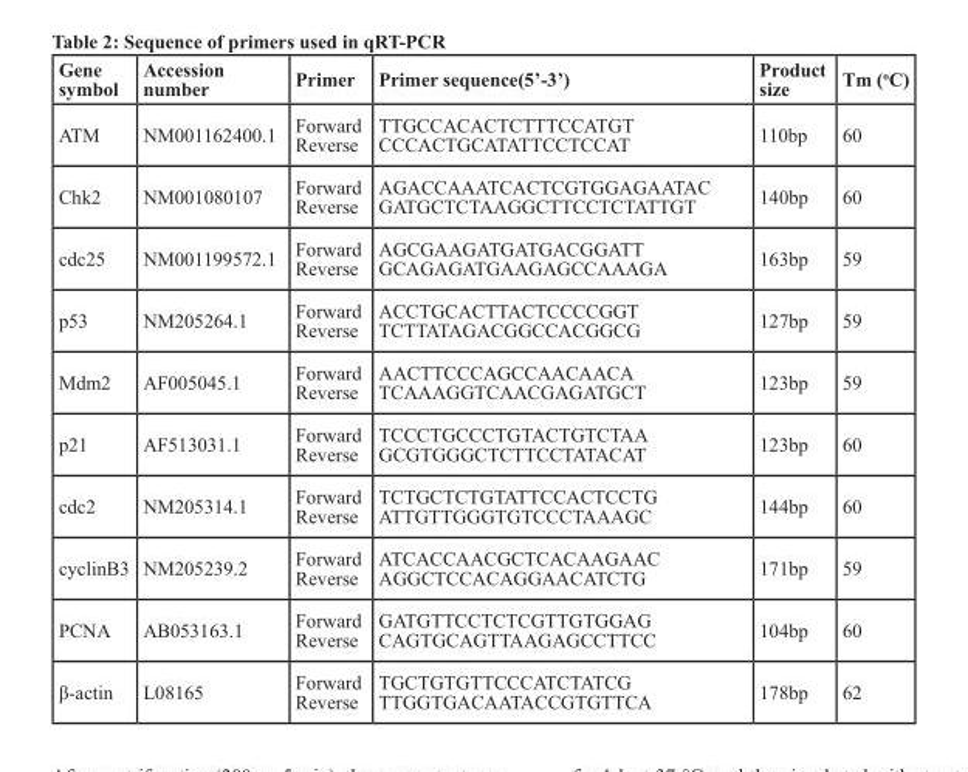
<table><thead><tr><td>Gene symbol</td><td>Accession number</td><td>Primer</td><td>Primer sequence(5’-3’)</td><td>Product size</td><td>Tm (°C)</td></tr></thead><tbody><tr><td>ATM</td><td>NM001162400.1</td><td>Forward Reverse</td><td>TTGCCACACTCTTTCCATGT CCCACTGCATATTCCTCCAT</td><td>110bp</td><td>60</td></tr><tr><td>Chk2</td><td>NM001080107</td><td>Forward Reverse</td><td>AGACCAAATCACTCGTGGAGAATAC GATGCTCTAAGGCTTCCTCTATTGT</td><td>140bp</td><td>60</td></tr><tr><td>cdc25</td><td>NM001199572.1</td><td>Forward Reverse</td><td>AGCGAAGATGATGACGGATT GCAGAGATGAAGAGCCAAAGA</td><td>163bp</td><td>59</td></tr><tr><td>p53</td><td>NM205264.1</td><td>Forward Reverse</td><td>ACCTGCACTTACTCCCCGGT TCTTATAGACGGCCACGGCG</td><td>127bp</td><td>59</td></tr><tr><td>Mdm2</td><td>AF005045.1</td><td>Forward Reverse</td><td>AACTTCCCAGCCAACAACA TCAAAGGTCAACGAGATGCT</td><td>123bp</td><td>59</td></tr><tr><td>p21</td><td>AF513031.1</td><td>Forward Reverse</td><td>TCCCTGCCCTGTACTGTCTAA GCGTGGGCTCTTCCTATACAT</td><td>123bp</td><td>60</td></tr><tr><td>cdc2</td><td>NM205314.1</td><td>Forward Reverse</td><td>TCTGCTCTGTATTCCACTCCTG ATTGTTGGGTGTCCCTAAAGC</td><td>144bp</td><td>60</td></tr><tr><td>cyclinB3</td><td>NM205239.2</td><td>Forward Reverse</td><td>ATCACCAACGCTCACAAGAAC AGGCTCCACAGGAACATCTG</td><td>171bp</td><td>59</td></tr><tr><td>PCNA</td><td>AB053163.1</td><td>Forward Reverse</td><td>GATGTTCCTCTCGTTGTGGAG CAGTGCAGTTAAGAGCCTTCC</td><td>104bp</td><td>60</td></tr><tr><td>β-actin</td><td>L08165</td><td>Forward Reverse</td><td>TGCTGTGTTCCCATCTATCG TTGGTGACAATACCGTGTTCA</td><td>178bp</td><td>62</td></tr></tbody></table>